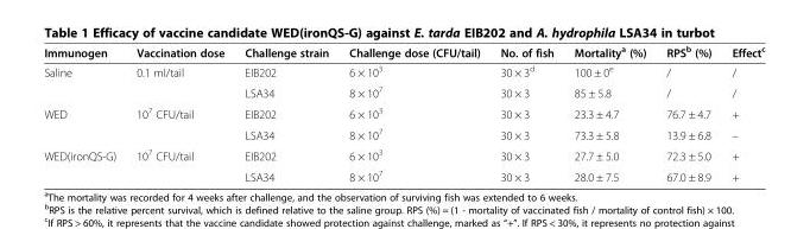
<table><thead><tr><td>Immunogen</td><td>Vaccination dose</td><td>Challenge strain</td><td>Challenge dose (CFU/tail)</td><td>No. of fish</td><td>Mortality<sup>a</sup> (%)</td><td>RPS<sup>b</sup> (%)</td><td>Effect<sup>c</sup></td></tr></thead><tbody><tr><td rowspan="2">Saline</td><td>0.1 ml/tail</td><td>EIB202</td><td>6 × 10<sup>3</sup></td><td>30 × 3<sup>d</sup></td><td>100 ± 0<sup>e</sup></td><td>/</td><td>/</td></tr><tr><td></td><td>LSA34</td><td>8 × 10<sup>7</sup></td><td>30 × 3</td><td>85 ± 5.8</td><td>/</td><td>/</td></tr><tr><td rowspan="2">WED</td><td>10<sup>7</sup> CFU/tail</td><td>EIB202</td><td>6 × 10<sup>3</sup></td><td>30 × 3</td><td>23.3 ± 4.7</td><td>76.7 ± 4.7</td><td>+</td></tr><tr><td></td><td>LSA34</td><td>8 × 10<sup>7</sup></td><td>30 × 3</td><td>73.3 ± 5.8</td><td>13.9 ± 6.8</td><td>–</td></tr><tr><td rowspan="2">WED(ironQS-G)</td><td>10<sup>7</sup> CFU/tail</td><td>EIB202</td><td>6 × 10<sup>3</sup></td><td>30 × 3</td><td>27.7 ± 5.0</td><td>72.3 ± 5.0</td><td>+</td></tr><tr><td></td><td>LSA34</td><td>8 × 10<sup>7</sup></td><td>30 × 3</td><td>28.0 ± 7.5</td><td>67.0 ± 8.9</td><td>+</td></tr></tbody></table>